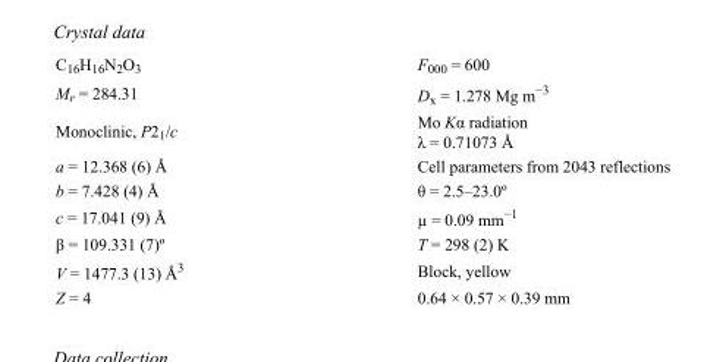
<table><tbody><tr><td>C<sub>16</sub>H<sub>16</sub>N<sub>2</sub>O<sub>3</sub></td><td>F<sub>000</sub> = 600</td></tr><tr><td>M<sub>r</sub> = 284.31</td><td>D<sub>x</sub> = 1.278 Mg m<sup>−3</sup></td></tr><tr><td>Monoclinic, P2<sub>1</sub>/c</td><td>Mo Kα radiation λ = 0.71073 Å</td></tr><tr><td>a = 12.368 (6) Å</td><td>Cell parameters from 2043 reflections</td></tr><tr><td>b = 7.428 (4) Å</td><td>θ = 2.5–23.0º</td></tr><tr><td>c = 17.041 (9) Å</td><td>µ = 0.09 mm<sup>−1</sup></td></tr><tr><td>β = 109.331 (7)º</td><td>T = 298 (2) K</td></tr><tr><td>V = 1477.3 (13) Å<sup>3</sup></td><td>Block, yellow</td></tr><tr><td>Z = 4</td><td>0.64 × 0.57 × 0.39 mm</td></tr></tbody></table>